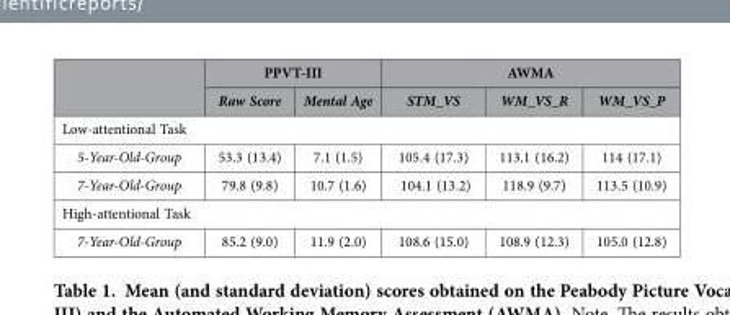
<table><thead><tr><td rowspan="2"></td><td colspan="2">PPVT-III</td><td colspan="3">AWMA</td></tr><tr><td>Raw Score</td><td>Mental Age</td><td>STM_VS</td><td>WM_VS_R</td><td>WM_VS_P</td></tr></thead><tbody><tr><td colspan="6">Low-attentional Task</td></tr><tr><td>5-Year-Old-Group</td><td>53.3 (13.4)</td><td>7.1 (1.5)</td><td>105.4 (17.3)</td><td>113.1 (16.2)</td><td>114 (17.1)</td></tr><tr><td>7-Year-Old-Group</td><td>79.8 (9.8)</td><td>10.7 (1.6)</td><td>104.1 (13.2)</td><td>118.9 (9.7)</td><td>113.5 (10.9)</td></tr><tr><td colspan="6">High-attentional Task</td></tr><tr><td>7-Year-Old-Group</td><td>85.2 (9.0)</td><td>11.9 (2.0)</td><td>108.6 (15.0)</td><td>108.9 (12.3)</td><td>105.0 (12.8)</td></tr></tbody></table>